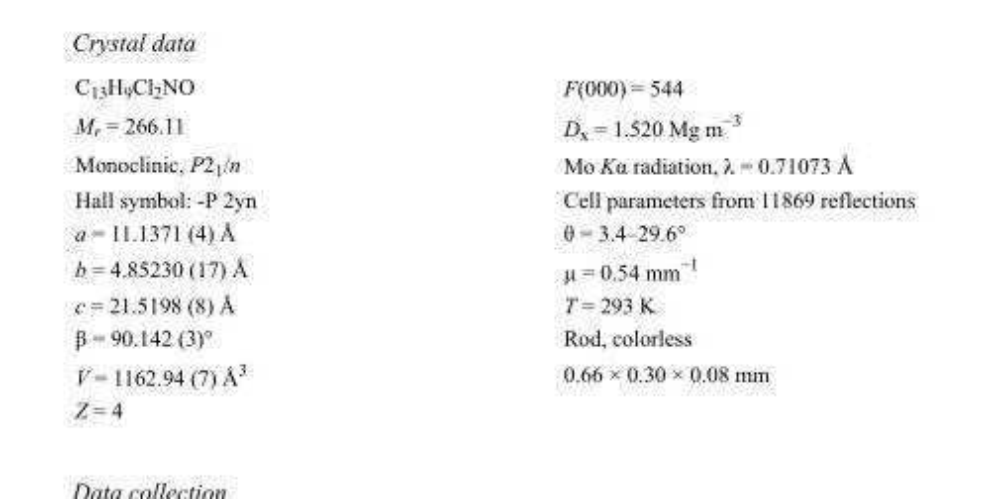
<table><tbody><tr><td>C<sub>13</sub>H<sub>9</sub>Cl<sub>2</sub>NO</td><td>F(000) = 544</td></tr><tr><td>M<sub>r</sub> = 266.11</td><td>D<sub>x</sub> = 1.520 Mg m<sup>−3</sup></td></tr><tr><td>Monoclinic, P2<sub>1</sub>/n</td><td>Mo Kα radiation, λ = 0.71073 Å</td></tr><tr><td>Hall symbol: -P 2yn</td><td>Cell parameters from 11869 reflections</td></tr><tr><td>a = 11.1371 (4) Å</td><td>θ = 3.4–29.6°</td></tr><tr><td>b = 4.85230 (17) Å</td><td>µ = 0.54 mm<sup>−1</sup></td></tr><tr><td>c = 21.5198 (8) Å</td><td>T = 293 K</td></tr><tr><td>β = 90.142 (3)°</td><td>Rod, colorless</td></tr><tr><td>V = 1162.94 (7) Å<sup>3</sup></td><td>0.66 × 0.30 × 0.08 mm</td></tr><tr><td>Z = 4</td><td></td></tr></tbody></table>